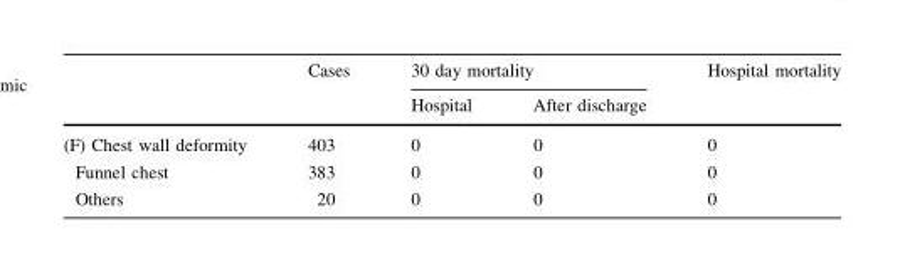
<table><thead><tr><td rowspan="2"></td><td rowspan="2">Cases</td><td colspan="2">30 day mortality</td><td rowspan="2">Hospital mortality</td></tr><tr><td>Hospital</td><td>After discharge</td></tr></thead><tbody><tr><td>(F) Chest wall deformity</td><td>403</td><td>0</td><td>0</td><td>0</td></tr><tr><td>Funnel chest</td><td>383</td><td>0</td><td>0</td><td>0</td></tr><tr><td>Others</td><td>20</td><td>0</td><td>0</td><td>0</td></tr></tbody></table>